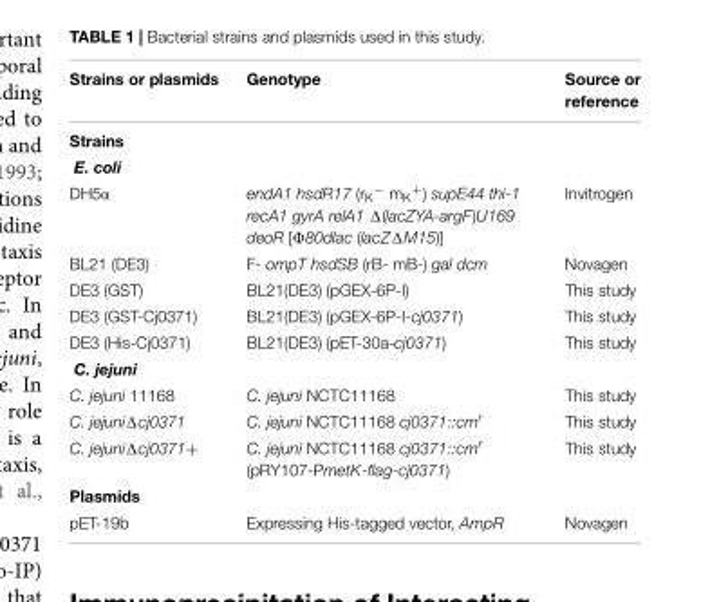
<table><thead><tr><td>Strains or plasmids</td><td>Genotype</td><td>Source or reference</td></tr></thead><tbody><tr><td colspan="3">Strains</td></tr><tr><td colspan="3">E. coli</td></tr><tr><td>DH5α</td><td>endA1 hsdR17 (r<sub>K</sub><sup>−</sup> m<sub>K</sub><sup>+</sup>) supE44 thi-1 recA1 gyrA relA1 Δ(lacZYA-argF)U169 deoR [Φ80dlac (lacZΔM15)]</td><td>Invitrogen</td></tr><tr><td>BL21 (DE3)</td><td>F- ompT hsdSB (rB- mB-) gal dcm</td><td>Novagen</td></tr><tr><td>DE3 (GST)</td><td>BL21(DE3) (pGEX-6P-I)</td><td>This study</td></tr><tr><td>DE3 (GST-Cj0371)</td><td>BL21(DE3) (pGEX-6P-I-cj0371)</td><td>This study</td></tr><tr><td>DE3 (His-Cj0371)</td><td>BL21(DE3) (pET-30a-cj0371)</td><td>This study</td></tr><tr><td colspan="3">C. jejuni</td></tr><tr><td>C. jejuni 11168</td><td>C. jejuni NCTC11168</td><td>This study</td></tr><tr><td>C. jejuniΔcj0371</td><td>C. jejuni NCTC11168 cj0371::cm<sup>r</sup></td><td>This study</td></tr><tr><td>C. jejuniΔcj0371+</td><td>C. jejuni NCTC11168 cj0371::cm<sup>r</sup> (pRY107-PmetK-flag-cj0371)</td><td>This study</td></tr><tr><td colspan="3">Plasmids</td></tr><tr><td>pET-19b</td><td>Expressing His-tagged vector, AmpR</td><td>Novagen</td></tr></tbody></table>